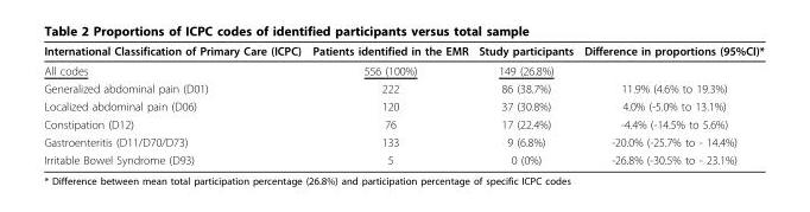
<table><thead><tr><td>International Classification of Primary Care (ICPC)</td><td>Patients identified in the EMR</td><td>Study participants</td><td>Difference in proportions (95%CI)*</td></tr></thead><tbody><tr><td>All codes</td><td>556 (100%)</td><td>149 (26.8%)</td><td></td></tr><tr><td>Generalized abdominal pain (D01)</td><td>222</td><td>86 (38.7%)</td><td>11.9% (4.6% to 19.3%)</td></tr><tr><td>Localized abdominal pain (D06)</td><td>120</td><td>37 (30.8%)</td><td>4.0% (-5.0% to 13.1%)</td></tr><tr><td>Constipation (D12)</td><td>76</td><td>17 (22.4%)</td><td>-4.4% (-14.5% to 5.6%)</td></tr><tr><td>Gastroenteritis (D11/D70/D73)</td><td>133</td><td>9 (6.8%)</td><td>-20.0% (-25.7% to - 14.4%)</td></tr><tr><td>Irritable Bowel Syndrome (D93)</td><td>5</td><td>0 (0%)</td><td>-26.8% (-30.5% to - 23.1%)</td></tr></tbody></table>